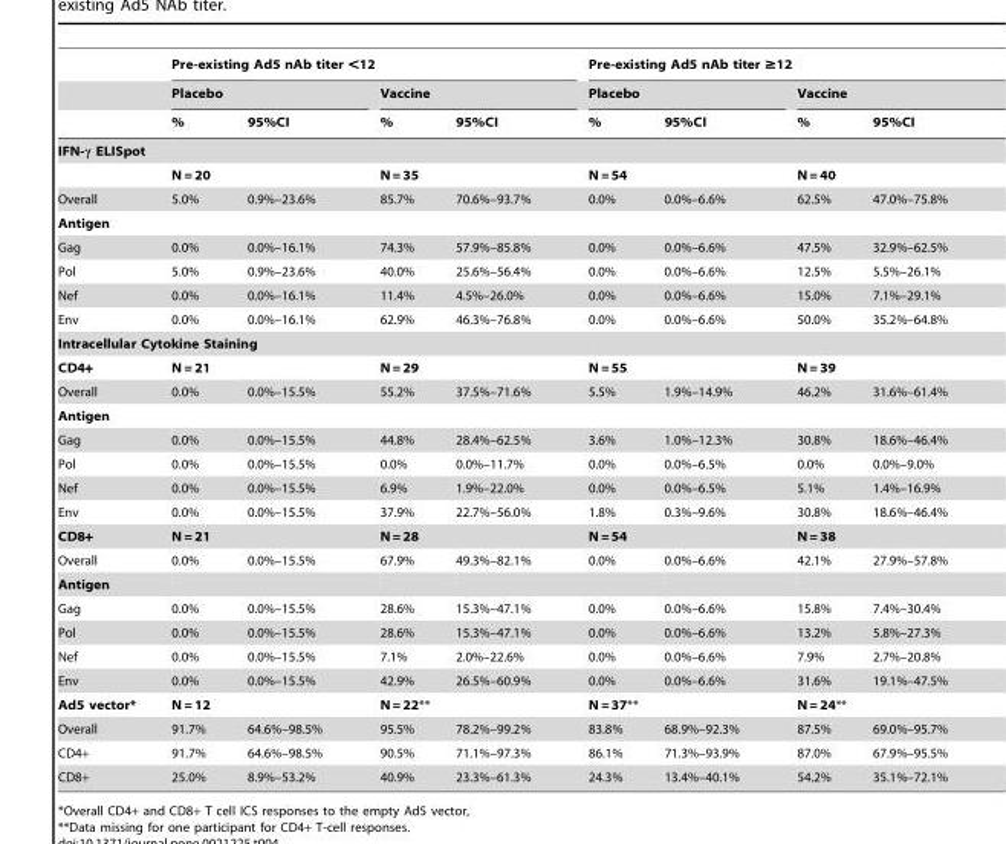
<table><thead><tr><td rowspan="3"></td><td colspan="4">Pre-existing Ad5 nAb titer &lt;12</td><td colspan="4">Pre-existing Ad5 nAb titer ≥12</td></tr><tr><td colspan="2">Placebo</td><td colspan="2">Vaccine</td><td colspan="2">Placebo</td><td colspan="2">Vaccine</td></tr><tr><td>%</td><td>95%CI</td><td>%</td><td>95%CI</td><td>%</td><td>95%CI</td><td>%</td><td>95%CI</td></tr></thead><tbody><tr><td colspan="9">IFN-γ ELISpot</td></tr><tr><td></td><td colspan="2">N = 20</td><td colspan="2">N = 35</td><td colspan="2">N = 54</td><td colspan="2">N = 40</td></tr><tr><td>Overall</td><td>5.0%</td><td>0.9%–23.6%</td><td>85.7%</td><td>70.6%–93.7%</td><td>0.0%</td><td>0.0%–6.6%</td><td>62.5%</td><td>47.0%–75.8%</td></tr><tr><td colspan="9">Antigen</td></tr><tr><td>Gag</td><td>0.0%</td><td>0.0%–16.1%</td><td>74.3%</td><td>57.9%–85.8%</td><td>0.0%</td><td>0.0%–6.6%</td><td>47.5%</td><td>32.9%–62.5%</td></tr><tr><td>Pol</td><td>5.0%</td><td>0.9%–23.6%</td><td>40.0%</td><td>25.6%–56.4%</td><td>0.0%</td><td>0.0%–6.6%</td><td>12.5%</td><td>5.5%–26.1%</td></tr><tr><td>Nef</td><td>0.0%</td><td>0.0%–16.1%</td><td>11.4%</td><td>4.5%–26.0%</td><td>0.0%</td><td>0.0%–6.6%</td><td>15.0%</td><td>7.1%–29.1%</td></tr><tr><td>Env</td><td>0.0%</td><td>0.0%–16.1%</td><td>62.9%</td><td>46.3%–76.8%</td><td>0.0%</td><td>0.0%–6.6%</td><td>50.0%</td><td>35.2%–64.8%</td></tr><tr><td colspan="9">Intracellular Cytokine Staining</td></tr><tr><td>CD4+</td><td colspan="2">N = 21</td><td colspan="2">N = 29</td><td colspan="2">N = 55</td><td colspan="2">N = 39</td></tr><tr><td>Overall</td><td>0.0%</td><td>0.0%–15.5%</td><td>55.2%</td><td>37.5%–71.6%</td><td>5.5%</td><td>1.9%–14.9%</td><td>46.2%</td><td>31.6%–61.4%</td></tr><tr><td colspan="9">Antigen</td></tr><tr><td>Gag</td><td>0.0%</td><td>0.0%–15.5%</td><td>44.8%</td><td>28.4%–62.5%</td><td>3.6%</td><td>1.0%–12.3%</td><td>30.8%</td><td>18.6%–46.4%</td></tr><tr><td>Pol</td><td>0.0%</td><td>0.0%–15.5%</td><td>0.0%</td><td>0.0%–11.7%</td><td>0.0%</td><td>0.0%–6.5%</td><td>0.0%</td><td>0.0%–9.0%</td></tr><tr><td>Nef</td><td>0.0%</td><td>0.0%–15.5%</td><td>6.9%</td><td>1.9%–22.0%</td><td>0.0%</td><td>0.0%–6.5%</td><td>5.1%</td><td>1.4%–16.9%</td></tr><tr><td>Env</td><td>0.0%</td><td>0.0%–15.5%</td><td>37.9%</td><td>22.7%–56.0%</td><td>1.8%</td><td>0.3%–9.6%</td><td>30.8%</td><td>18.6%–46.4%</td></tr><tr><td>CD8+</td><td colspan="2">N = 21</td><td colspan="2">N = 28</td><td colspan="2">N = 54</td><td colspan="2">N = 38</td></tr><tr><td>Overall</td><td>0.0%</td><td>0.0%–15.5%</td><td>67.9%</td><td>49.3%–82.1%</td><td>0.0%</td><td>0.0%–6.6%</td><td>42.1%</td><td>27.9%–57.8%</td></tr><tr><td colspan="9">Antigen</td></tr><tr><td>Gag</td><td>0.0%</td><td>0.0%–15.5%</td><td>28.6%</td><td>15.3%–47.1%</td><td>0.0%</td><td>0.0%–6.6%</td><td>15.8%</td><td>7.4%–30.4%</td></tr><tr><td>Pol</td><td>0.0%</td><td>0.0%–15.5%</td><td>28.6%</td><td>15.3%–47.1%</td><td>0.0%</td><td>0.0%–6.6%</td><td>13.2%</td><td>5.8%–27.3%</td></tr><tr><td>Nef</td><td>0.0%</td><td>0.0%–15.5%</td><td>7.1%</td><td>2.0%–22.6%</td><td>0.0%</td><td>0.0%–6.6%</td><td>7.9%</td><td>2.7%–20.8%</td></tr><tr><td>Env</td><td>0.0%</td><td>0.0%–15.5%</td><td>42.9%</td><td>26.5%–60.9%</td><td>0.0%</td><td>0.0%–6.6%</td><td>31.6%</td><td>19.1%–47.5%</td></tr><tr><td>Ad5 vector*</td><td colspan="2">N = 12</td><td colspan="2">N = 22**</td><td colspan="2">N = 37**</td><td colspan="2">N = 24**</td></tr><tr><td>Overall</td><td>91.7%</td><td>64.6%–98.5%</td><td>95.5%</td><td>78.2%–99.2%</td><td>83.8%</td><td>68.9%–92.3%</td><td>87.5%</td><td>69.0%–95.7%</td></tr><tr><td>CD4+</td><td>91.7%</td><td>64.6%–98.5%</td><td>90.5%</td><td>71.1%–97.3%</td><td>86.1%</td><td>71.3%–93.9%</td><td>87.0%</td><td>67.9%–95.5%</td></tr><tr><td>CD8+</td><td>25.0%</td><td>8.9%–53.2%</td><td>40.9%</td><td>23.3%–61.3%</td><td>24.3%</td><td>13.4%–40.1%</td><td>54.2%</td><td>35.1%–72.1%</td></tr></tbody></table>